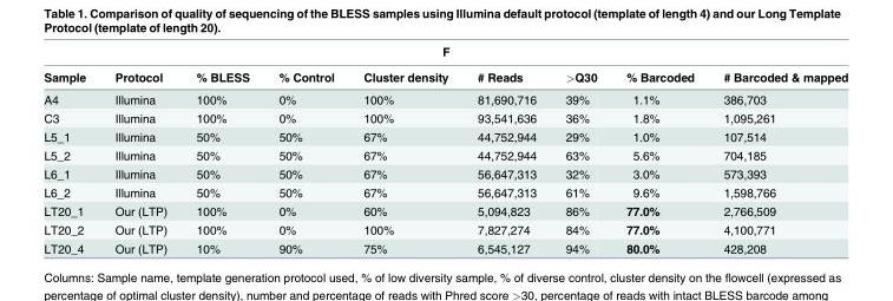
<table><thead><tr><td colspan="9">F</td></tr><tr><td>Sample</td><td>Protocol</td><td>% BLESS</td><td>% Control</td><td>Cluster density</td><td># Reads</td><td>&gt;Q30</td><td>% Barcoded</td><td># Barcoded &amp; mapped</td></tr></thead><tbody><tr><td>A4</td><td>Illumina</td><td>100%</td><td>0%</td><td>100%</td><td>81,690,716</td><td>39%</td><td>1.1%</td><td>386,703</td></tr><tr><td>C3</td><td>Illumina</td><td>100%</td><td>0%</td><td>100%</td><td>93,541,636</td><td>36%</td><td>1.8%</td><td>1,095,261</td></tr><tr><td>L5_1</td><td>Illumina</td><td>50%</td><td>50%</td><td>67%</td><td>44,752,944</td><td>29%</td><td>1.0%</td><td>107,514</td></tr><tr><td>L5_2</td><td>Illumina</td><td>50%</td><td>50%</td><td>67%</td><td>44,752,944</td><td>63%</td><td>5.6%</td><td>704,185</td></tr><tr><td>L6_1</td><td>Illumina</td><td>50%</td><td>50%</td><td>67%</td><td>56,647,313</td><td>32%</td><td>3.0%</td><td>573,393</td></tr><tr><td>L6_2</td><td>Illumina</td><td>50%</td><td>50%</td><td>67%</td><td>56,647,313</td><td>61%</td><td>9.6%</td><td>1,598,766</td></tr><tr><td>LT20_1</td><td>Our (LTP)</td><td>100%</td><td>0%</td><td>60%</td><td>5,094,823</td><td>86%</td><td>77.0%</td><td>2,766,509</td></tr><tr><td>LT20_2</td><td>Our (LTP)</td><td>100%</td><td>0%</td><td>100%</td><td>7,827,274</td><td>84%</td><td>77.0%</td><td>4,100,771</td></tr><tr><td>LT20_4</td><td>Our (LTP)</td><td>10%</td><td>90%</td><td>75%</td><td>6,545,127</td><td>94%</td><td>80.0%</td><td>428,208</td></tr></tbody></table>